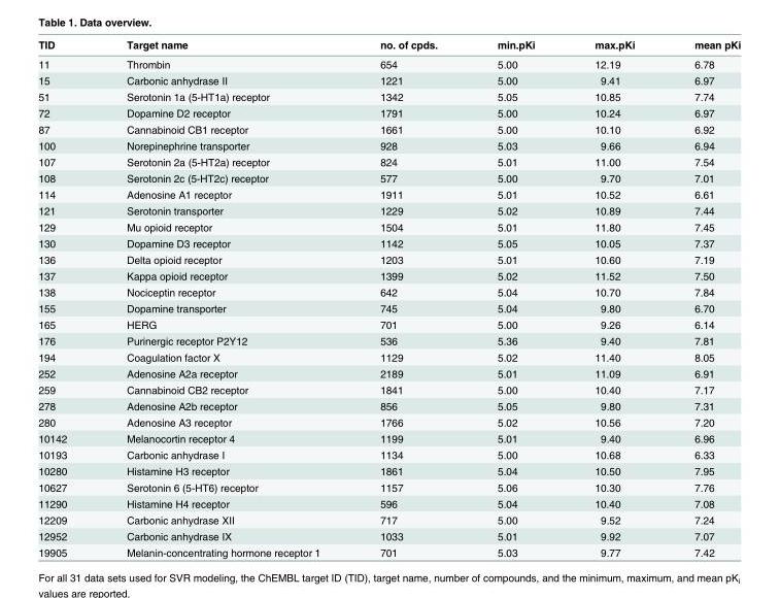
<table><thead><tr><td>TID</td><td>Target name</td><td>no. of cpds.</td><td>min.pKi</td><td>max.pKi</td><td>mean pKi</td></tr></thead><tbody><tr><td>11</td><td>Thrombin</td><td>654</td><td>5.00</td><td>12.19</td><td>6.78</td></tr><tr><td>15</td><td>Carbonic anhydrase II</td><td>1221</td><td>5.00</td><td>9.41</td><td>6.97</td></tr><tr><td>51</td><td>Serotonin 1a (5-HT1a) receptor</td><td>1342</td><td>5.05</td><td>10.85</td><td>7.74</td></tr><tr><td>72</td><td>Dopamine D2 receptor</td><td>1791</td><td>5.00</td><td>10.24</td><td>6.97</td></tr><tr><td>87</td><td>Cannabinoid CB1 receptor</td><td>1661</td><td>5.00</td><td>10.10</td><td>6.92</td></tr><tr><td>100</td><td>Norepinephrine transporter</td><td>928</td><td>5.03</td><td>9.66</td><td>6.94</td></tr><tr><td>107</td><td>Serotonin 2a (5-HT2a) receptor</td><td>824</td><td>5.01</td><td>11.00</td><td>7.54</td></tr><tr><td>108</td><td>Serotonin 2c (5-HT2c) receptor</td><td>577</td><td>5.00</td><td>9.70</td><td>7.01</td></tr><tr><td>114</td><td>Adenosine A1 receptor</td><td>1911</td><td>5.01</td><td>10.52</td><td>6.61</td></tr><tr><td>121</td><td>Serotonin transporter</td><td>1229</td><td>5.02</td><td>10.89</td><td>7.44</td></tr><tr><td>129</td><td>Mu opioid receptor</td><td>1504</td><td>5.01</td><td>11.80</td><td>7.45</td></tr><tr><td>130</td><td>Dopamine D3 receptor</td><td>1142</td><td>5.05</td><td>10.05</td><td>7.37</td></tr><tr><td>136</td><td>Delta opioid receptor</td><td>1203</td><td>5.01</td><td>10.60</td><td>7.19</td></tr><tr><td>137</td><td>Kappa opioid receptor</td><td>1399</td><td>5.02</td><td>11.52</td><td>7.50</td></tr><tr><td>138</td><td>Nociceptin receptor</td><td>642</td><td>5.04</td><td>10.70</td><td>7.84</td></tr><tr><td>155</td><td>Dopamine transporter</td><td>745</td><td>5.04</td><td>9.80</td><td>6.70</td></tr><tr><td>165</td><td>HERG</td><td>701</td><td>5.00</td><td>9.26</td><td>6.14</td></tr><tr><td>176</td><td>Purinergic receptor P2Y12</td><td>536</td><td>5.36</td><td>9.40</td><td>7.81</td></tr><tr><td>194</td><td>Coagulation factor X</td><td>1129</td><td>5.02</td><td>11.40</td><td>8.05</td></tr><tr><td>252</td><td>Adenosine A2a receptor</td><td>2189</td><td>5.01</td><td>11.09</td><td>6.91</td></tr><tr><td>259</td><td>Cannabinoid CB2 receptor</td><td>1841</td><td>5.00</td><td>10.40</td><td>7.17</td></tr><tr><td>278</td><td>Adenosine A2b receptor</td><td>856</td><td>5.05</td><td>9.80</td><td>7.31</td></tr><tr><td>280</td><td>Adenosine A3 receptor</td><td>1766</td><td>5.02</td><td>10.56</td><td>7.20</td></tr><tr><td>10142</td><td>Melanocortin receptor 4</td><td>1199</td><td>5.01</td><td>9.40</td><td>6.96</td></tr><tr><td>10193</td><td>Carbonic anhydrase I</td><td>1134</td><td>5.00</td><td>10.68</td><td>6.33</td></tr><tr><td>10280</td><td>Histamine H3 receptor</td><td>1861</td><td>5.04</td><td>10.50</td><td>7.95</td></tr><tr><td>10627</td><td>Serotonin 6 (5-HT6) receptor</td><td>1157</td><td>5.06</td><td>10.30</td><td>7.76</td></tr><tr><td>11290</td><td>Histamine H4 receptor</td><td>596</td><td>5.04</td><td>10.40</td><td>7.08</td></tr><tr><td>12209</td><td>Carbonic anhydrase XII</td><td>717</td><td>5.00</td><td>9.52</td><td>7.24</td></tr><tr><td>12952</td><td>Carbonic anhydrase IX</td><td>1033</td><td>5.01</td><td>9.92</td><td>7.07</td></tr><tr><td>19905</td><td>Melanin-concentrating hormone receptor 1</td><td>701</td><td>5.03</td><td>9.77</td><td>7.42</td></tr></tbody></table>